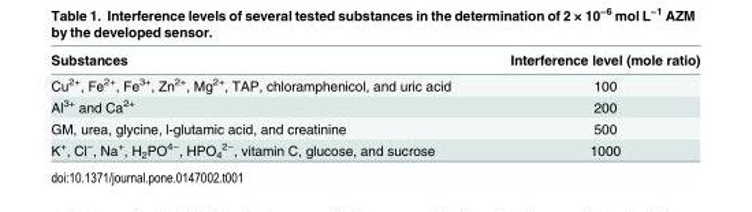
<table><thead><tr><td>Substances</td><td>Interference level (mole ratio)</td></tr></thead><tbody><tr><td>Cu<sup>2+</sup>, Fe<sup>2+</sup>, Fe<sup>3+</sup>, Zn<sup>2+</sup>, Mg<sup>2+</sup>, TAP, chloramphenicol, and uric acid</td><td>100</td></tr><tr><td>Al<sup>3+</sup> and Ca<sup>2+</sup></td><td>200</td></tr><tr><td>GM, urea, glycine, l-glutamic acid, and creatinine</td><td>500</td></tr><tr><td>K<sup>+</sup>, Cl<sup>−</sup>, Na<sup>+</sup>, H<sub>2</sub>PO<sup>4−</sup>, HPO<sub>4</sub> <sup>2−</sup>, vitamin C, glucose, and sucrose</td><td>1000</td></tr></tbody></table>